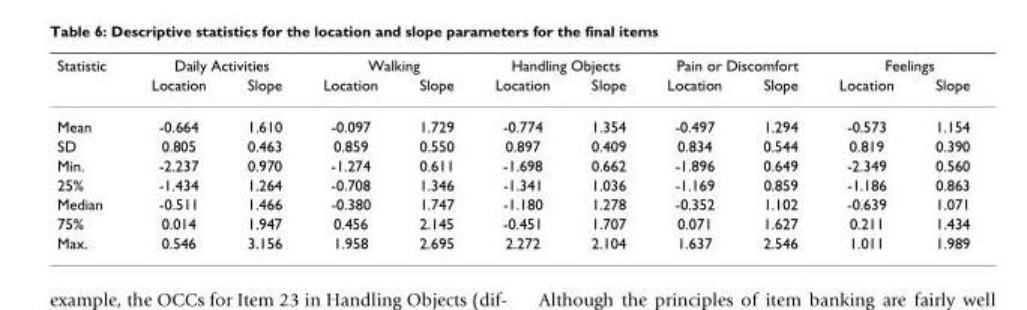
<table><thead><tr><td rowspan="2">Statistic</td><td colspan="2">Daily Activities</td><td colspan="2">Walking</td><td colspan="2">Handling Objects</td><td colspan="2">Pain or Discomfort</td><td colspan="2">Feelings</td></tr><tr><td>Location</td><td>Slope</td><td>Location</td><td>Slope</td><td>Location</td><td>Slope</td><td>Location</td><td>Slope</td><td>Location</td><td>Slope</td></tr></thead><tbody><tr><td>Mean</td><td>-0.664</td><td>1.610</td><td>-0.097</td><td>1.729</td><td>-0.774</td><td>1.354</td><td>-0.497</td><td>1.294</td><td>-0.573</td><td>1.154</td></tr><tr><td>SD</td><td>0.805</td><td>0.463</td><td>0.859</td><td>0.550</td><td>0.897</td><td>0.409</td><td>0.834</td><td>0.544</td><td>0.819</td><td>0.390</td></tr><tr><td>Min.</td><td>-2.237</td><td>0.970</td><td>-1.274</td><td>0.611</td><td>-1.698</td><td>0.662</td><td>-1.896</td><td>0.649</td><td>-2.349</td><td>0.560</td></tr><tr><td>25%</td><td>-1.434</td><td>1.264</td><td>-0.708</td><td>1.346</td><td>-1.341</td><td>1.036</td><td>-1.169</td><td>0.859</td><td>-1.186</td><td>0.863</td></tr><tr><td>Median</td><td>-0.511</td><td>1.466</td><td>-0.380</td><td>1.747</td><td>-1.180</td><td>1.278</td><td>-0.352</td><td>1.102</td><td>-0.639</td><td>1.071</td></tr><tr><td>75%</td><td>0.014</td><td>1.947</td><td>0.456</td><td>2.145</td><td>-0.451</td><td>1.707</td><td>0.071</td><td>1.627</td><td>0.211</td><td>1.434</td></tr><tr><td>Max.</td><td>0.546</td><td>3.156</td><td>1.958</td><td>2.695</td><td>2.272</td><td>2.104</td><td>1.637</td><td>2.546</td><td>1.011</td><td>1.989</td></tr></tbody></table>